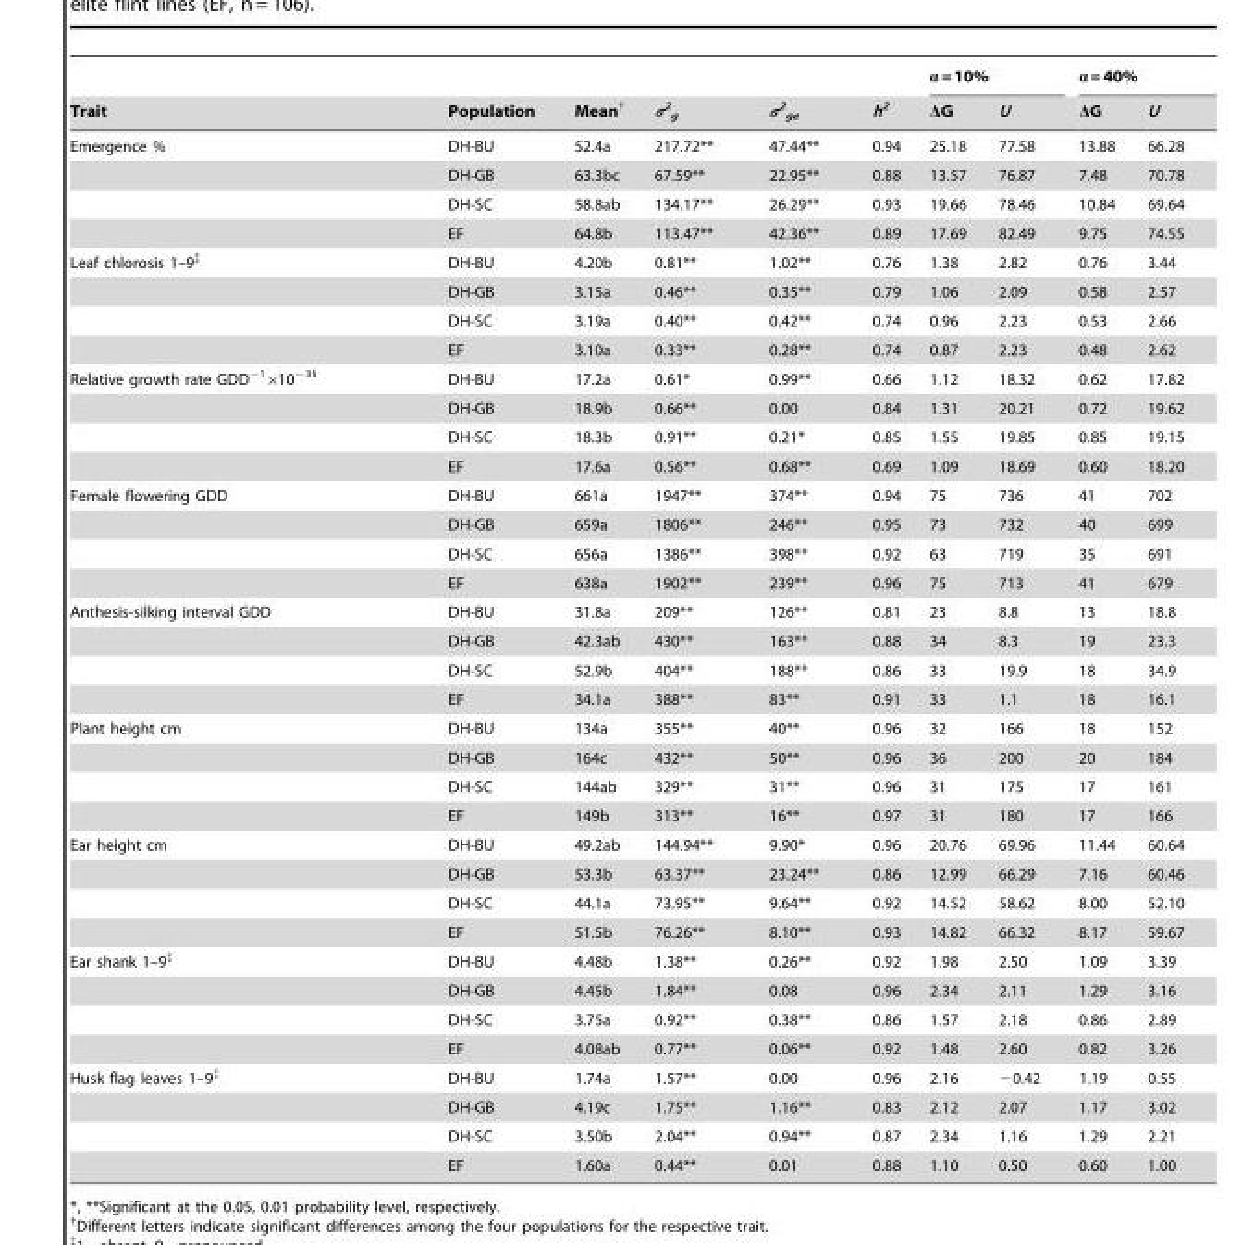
<table><thead><tr><td rowspan="2">Trait</td><td rowspan="2">Population</td><td rowspan="2">Mean†</td><td rowspan="2">σ<sup>2</sup> <sub>g</sub></td><td rowspan="2">σ<sup>2</sup> <sub>ge</sub></td><td rowspan="2">h<sup>2</sup></td><td colspan="2">α = 10%</td><td colspan="2">α = 40%</td></tr><tr><td>ΔG</td><td>U</td><td>ΔG</td><td>U</td></tr></thead><tbody><tr><td rowspan="4">Emergence %</td><td>DH-BU</td><td>52.4a</td><td>217.72**</td><td>47.44**</td><td>0.94</td><td>25.18</td><td>77.58</td><td>13.88</td><td>66.28</td></tr><tr><td>DH-GB</td><td>63.3bc</td><td>67.59**</td><td>22.95**</td><td>0.88</td><td>13.57</td><td>76.87</td><td>7.48</td><td>70.78</td></tr><tr><td>DH-SC</td><td>58.8ab</td><td>134.17**</td><td>26.29**</td><td>0.93</td><td>19.66</td><td>78.46</td><td>10.84</td><td>69.64</td></tr><tr><td>EF</td><td>64.8b</td><td>113.47**</td><td>42.36**</td><td>0.89</td><td>17.69</td><td>82.49</td><td>9.75</td><td>74.55</td></tr><tr><td rowspan="4">Leaf chlorosis 1–9‡</td><td>DH-BU</td><td>4.20b</td><td>0.81**</td><td>1.02**</td><td>0.76</td><td>1.38</td><td>2.82</td><td>0.76</td><td>3.44</td></tr><tr><td>DH-GB</td><td>3.15a</td><td>0.46**</td><td>0.35**</td><td>0.79</td><td>1.06</td><td>2.09</td><td>0.58</td><td>2.57</td></tr><tr><td>DH-SC</td><td>3.19a</td><td>0.40**</td><td>0.42**</td><td>0.74</td><td>0.96</td><td>2.23</td><td>0.53</td><td>2.66</td></tr><tr><td>EF</td><td>3.10a</td><td>0.33**</td><td>0.28**</td><td>0.74</td><td>0.87</td><td>2.23</td><td>0.48</td><td>2.62</td></tr><tr><td rowspan="4">Relative growth rate GDD<sup>−1</sup>×10<sup>−3</sup>§</td><td>DH-BU</td><td>17.2a</td><td>0.61*</td><td>0.99**</td><td>0.66</td><td>1.12</td><td>18.32</td><td>0.62</td><td>17.82</td></tr><tr><td>DH-GB</td><td>18.9b</td><td>0.66**</td><td>0.00</td><td>0.84</td><td>1.31</td><td>20.21</td><td>0.72</td><td>19.62</td></tr><tr><td>DH-SC</td><td>18.3b</td><td>0.91**</td><td>0.21*</td><td>0.85</td><td>1.55</td><td>19.85</td><td>0.85</td><td>19.15</td></tr><tr><td>EF</td><td>17.6a</td><td>0.56**</td><td>0.68**</td><td>0.69</td><td>1.09</td><td>18.69</td><td>0.60</td><td>18.20</td></tr><tr><td rowspan="4">Female flowering GDD</td><td>DH-BU</td><td>661a</td><td>1947**</td><td>374**</td><td>0.94</td><td>75</td><td>736</td><td>41</td><td>702</td></tr><tr><td>DH-GB</td><td>659a</td><td>1806**</td><td>246**</td><td>0.95</td><td>73</td><td>732</td><td>40</td><td>699</td></tr><tr><td>DH-SC</td><td>656a</td><td>1386**</td><td>398**</td><td>0.92</td><td>63</td><td>719</td><td>35</td><td>691</td></tr><tr><td>EF</td><td>638a</td><td>1902**</td><td>239**</td><td>0.96</td><td>75</td><td>713</td><td>41</td><td>679</td></tr><tr><td rowspan="4">Anthesis-silking interval GDD</td><td>DH-BU</td><td>31.8a</td><td>209**</td><td>126**</td><td>0.81</td><td>23</td><td>8.8</td><td>13</td><td>18.8</td></tr><tr><td>DH-GB</td><td>42.3ab</td><td>430**</td><td>163**</td><td>0.88</td><td>34</td><td>8.3</td><td>19</td><td>23.3</td></tr><tr><td>DH-SC</td><td>52.9b</td><td>404**</td><td>188**</td><td>0.86</td><td>33</td><td>19.9</td><td>18</td><td>34.9</td></tr><tr><td>EF</td><td>34.1a</td><td>388**</td><td>83**</td><td>0.91</td><td>33</td><td>1.1</td><td>18</td><td>16.1</td></tr><tr><td rowspan="4">Plant height cm</td><td>DH-BU</td><td>134a</td><td>355**</td><td>40**</td><td>0.96</td><td>32</td><td>166</td><td>18</td><td>152</td></tr><tr><td>DH-GB</td><td>164c</td><td>432**</td><td>50**</td><td>0.96</td><td>36</td><td>200</td><td>20</td><td>184</td></tr><tr><td>DH-SC</td><td>144ab</td><td>329**</td><td>31**</td><td>0.96</td><td>31</td><td>175</td><td>17</td><td>161</td></tr><tr><td>EF</td><td>149b</td><td>313**</td><td>16**</td><td>0.97</td><td>31</td><td>180</td><td>17</td><td>166</td></tr><tr><td rowspan="4">Ear height cm</td><td>DH-BU</td><td>49.2ab</td><td>144.94**</td><td>9.90*</td><td>0.96</td><td>20.76</td><td>69.96</td><td>11.44</td><td>60.64</td></tr><tr><td>DH-GB</td><td>53.3b</td><td>63.37**</td><td>23.24**</td><td>0.86</td><td>12.99</td><td>66.29</td><td>7.16</td><td>60.46</td></tr><tr><td>DH-SC</td><td>44.1a</td><td>73.95**</td><td>9.64**</td><td>0.92</td><td>14.52</td><td>58.62</td><td>8.00</td><td>52.10</td></tr><tr><td>EF</td><td>51.5b</td><td>76.26**</td><td>8.10**</td><td>0.93</td><td>14.82</td><td>66.32</td><td>8.17</td><td>59.67</td></tr><tr><td rowspan="4">Ear shank 1–9‡</td><td>DH-BU</td><td>4.48b</td><td>1.38**</td><td>0.26**</td><td>0.92</td><td>1.98</td><td>2.50</td><td>1.09</td><td>3.39</td></tr><tr><td>DH-GB</td><td>4.45b</td><td>1.84**</td><td>0.08</td><td>0.96</td><td>2.34</td><td>2.11</td><td>1.29</td><td>3.16</td></tr><tr><td>DH-SC</td><td>3.75a</td><td>0.92**</td><td>0.38**</td><td>0.86</td><td>1.57</td><td>2.18</td><td>0.86</td><td>2.89</td></tr><tr><td>EF</td><td>4.08ab</td><td>0.77**</td><td>0.06**</td><td>0.92</td><td>1.48</td><td>2.60</td><td>0.82</td><td>3.26</td></tr><tr><td rowspan="4">Husk flag leaves 1–9‡</td><td>DH-BU</td><td>1.74a</td><td>1.57**</td><td>0.00</td><td>0.96</td><td>2.16</td><td>−0.42</td><td>1.19</td><td>0.55</td></tr><tr><td>DH-GB</td><td>4.19c</td><td>1.75**</td><td>1.16**</td><td>0.83</td><td>2.12</td><td>2.07</td><td>1.17</td><td>3.02</td></tr><tr><td>DH-SC</td><td>3.50b</td><td>2.04**</td><td>0.94**</td><td>0.87</td><td>2.34</td><td>1.16</td><td>1.29</td><td>2.21</td></tr><tr><td>EF</td><td>1.60a</td><td>0.44**</td><td>0.01</td><td>0.88</td><td>1.10</td><td>0.50</td><td>0.60</td><td>1.00</td></tr></tbody></table>